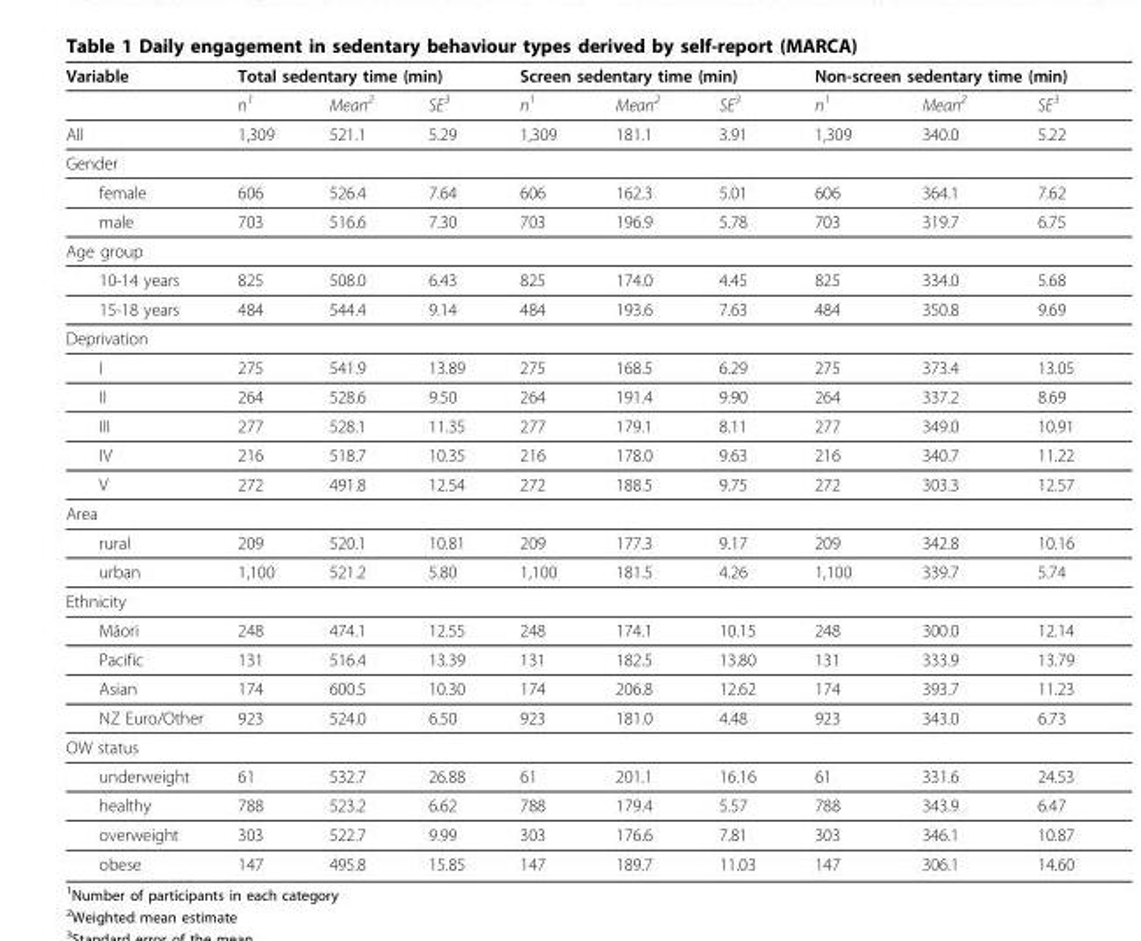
<table><thead><tr><td rowspan="2">Variable</td><td colspan="3">Total sedentary time (min)</td><td colspan="3">Screen sedentary time (min)</td><td colspan="3">Non-screen sedentary time (min)</td></tr><tr><td>n<sup>1</sup></td><td>Mean<sup>2</sup></td><td>SE<sup>3</sup></td><td>n<sup>1</sup></td><td>Mean<sup>2</sup></td><td>SE<sup>3</sup></td><td>n<sup>1</sup></td><td>Mean<sup>2</sup></td><td>SE<sup>3</sup></td></tr></thead><tbody><tr><td>All</td><td>1,309</td><td>521.1</td><td>5.29</td><td>1,309</td><td>181.1</td><td>3.91</td><td>1,309</td><td>340.0</td><td>5.22</td></tr><tr><td colspan="10">Gender</td></tr><tr><td>female</td><td>606</td><td>526.4</td><td>7.64</td><td>606</td><td>162.3</td><td>5.01</td><td>606</td><td>364.1</td><td>7.62</td></tr><tr><td>male</td><td>703</td><td>516.6</td><td>7.30</td><td>703</td><td>196.9</td><td>5.78</td><td>703</td><td>319.7</td><td>6.75</td></tr><tr><td colspan="10">Age group</td></tr><tr><td>10-14 years</td><td>825</td><td>508.0</td><td>6.43</td><td>825</td><td>174.0</td><td>4.45</td><td>825</td><td>334.0</td><td>5.68</td></tr><tr><td>15-18 years</td><td>484</td><td>544.4</td><td>9.14</td><td>484</td><td>193.6</td><td>7.63</td><td>484</td><td>350.8</td><td>9.69</td></tr><tr><td colspan="10">Deprivation</td></tr><tr><td>I</td><td>275</td><td>541.9</td><td>13.89</td><td>275</td><td>168.5</td><td>6.29</td><td>275</td><td>373.4</td><td>13.05</td></tr><tr><td>II</td><td>264</td><td>528.6</td><td>9.50</td><td>264</td><td>191.4</td><td>9.90</td><td>264</td><td>337.2</td><td>8.69</td></tr><tr><td>III</td><td>277</td><td>528.1</td><td>11.35</td><td>277</td><td>179.1</td><td>8.11</td><td>277</td><td>349.0</td><td>10.91</td></tr><tr><td>IV</td><td>216</td><td>518.7</td><td>10.35</td><td>216</td><td>178.0</td><td>9.63</td><td>216</td><td>340.7</td><td>11.22</td></tr><tr><td>V</td><td>272</td><td>491.8</td><td>12.54</td><td>272</td><td>188.5</td><td>9.75</td><td>272</td><td>303.3</td><td>12.57</td></tr><tr><td colspan="10">Area</td></tr><tr><td>rural</td><td>209</td><td>520.1</td><td>10.81</td><td>209</td><td>177.3</td><td>9.17</td><td>209</td><td>342.8</td><td>10.16</td></tr><tr><td>urban</td><td>1,100</td><td>521.2</td><td>5.80</td><td>1,100</td><td>181.5</td><td>4.26</td><td>1,100</td><td>339.7</td><td>5.74</td></tr><tr><td colspan="10">Ethnicity</td></tr><tr><td>Māori</td><td>248</td><td>474.1</td><td>12.55</td><td>248</td><td>174.1</td><td>10.15</td><td>248</td><td>300.0</td><td>12.14</td></tr><tr><td>Pacific</td><td>131</td><td>516.4</td><td>13.39</td><td>131</td><td>182.5</td><td>13.80</td><td>131</td><td>333.9</td><td>13.79</td></tr><tr><td>Asian</td><td>174</td><td>600.5</td><td>10.30</td><td>174</td><td>206.8</td><td>12.62</td><td>174</td><td>393.7</td><td>11.23</td></tr><tr><td>NZ Euro/Other</td><td>923</td><td>524.0</td><td>6.50</td><td>923</td><td>181.0</td><td>4.48</td><td>923</td><td>343.0</td><td>6.73</td></tr><tr><td colspan="10">OW status</td></tr><tr><td>underweight</td><td>61</td><td>532.7</td><td>26.88</td><td>61</td><td>201.1</td><td>16.16</td><td>61</td><td>331.6</td><td>24.53</td></tr><tr><td>healthy</td><td>788</td><td>523.2</td><td>6.62</td><td>788</td><td>179.4</td><td>5.57</td><td>788</td><td>343.9</td><td>6.47</td></tr><tr><td>overweight</td><td>303</td><td>522.7</td><td>9.99</td><td>303</td><td>176.6</td><td>7.81</td><td>303</td><td>346.1</td><td>10.87</td></tr><tr><td>obese</td><td>147</td><td>495.8</td><td>15.85</td><td>147</td><td>189.7</td><td>11.03</td><td>147</td><td>306.1</td><td>14.60</td></tr></tbody></table>